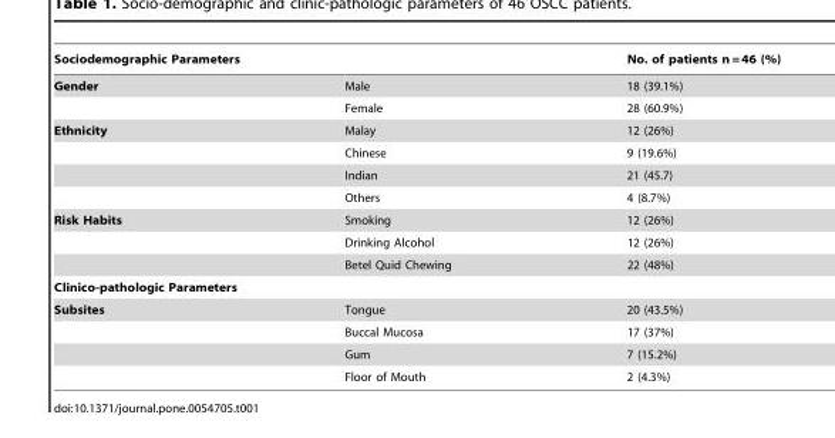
<table><thead><tr><td>Sociodemographic Parameters</td><td></td><td>No. of patients n = 46 (%)</td></tr></thead><tbody><tr><td rowspan="2">Gender</td><td>Male</td><td>18 (39.1%)</td></tr><tr><td>Female</td><td>28 (60.9%)</td></tr><tr><td rowspan="4">Ethnicity</td><td>Malay</td><td>12 (26%)</td></tr><tr><td>Chinese</td><td>9 (19.6%)</td></tr><tr><td>Indian</td><td>21 (45.7)</td></tr><tr><td>Others</td><td>4 (8.7%)</td></tr><tr><td rowspan="3">Risk Habits</td><td>Smoking</td><td>12 (26%)</td></tr><tr><td>Drinking Alcohol</td><td>12 (26%)</td></tr><tr><td>Betel Quid Chewing</td><td>22 (48%)</td></tr><tr><td colspan="3">Clinico-pathologic Parameters</td></tr><tr><td rowspan="4">Subsites</td><td>Tongue</td><td>20 (43.5%)</td></tr><tr><td>Buccal Mucosa</td><td>17 (37%)</td></tr><tr><td>Gum</td><td>7 (15.2%)</td></tr><tr><td>Floor of Mouth</td><td>2 (4.3%)</td></tr></tbody></table>